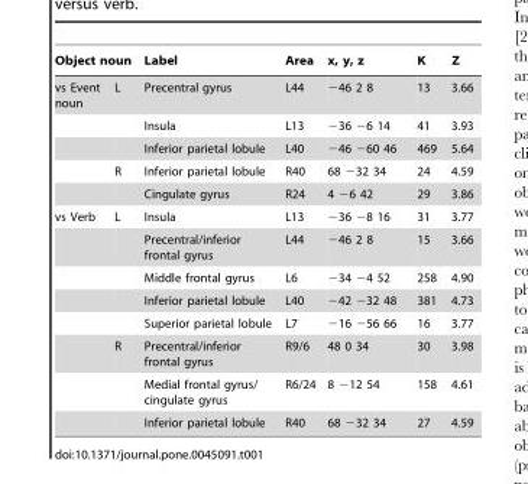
<table><thead><tr><td colspan="2">Object noun</td><td rowspan="2">Label Precentral gyrus</td><td rowspan="2">Area L44</td><td rowspan="2">x, y, z −46 2 8</td><td rowspan="2">K 13</td><td rowspan="2">Z 3.66</td></tr><tr><td>vs Event noun</td><td>L</td></tr></thead><tbody><tr><td></td><td></td><td>Insula</td><td>L13</td><td>−36 −6 14</td><td>41</td><td>3.93</td></tr><tr><td></td><td></td><td>Inferior parietal lobule</td><td>L40</td><td>−46 −60 46</td><td>469</td><td>5.64</td></tr><tr><td></td><td>R</td><td>Inferior parietal lobule</td><td>R40</td><td>68 −32 34</td><td>24</td><td>4.59</td></tr><tr><td></td><td></td><td>Cingulate gyrus</td><td>R24</td><td>4 −6 42</td><td>29</td><td>3.86</td></tr><tr><td rowspan="8">vs Verb</td><td>L</td><td>Insula</td><td>L13</td><td>−36 −8 16</td><td>31</td><td>3.77</td></tr><tr><td></td><td>Precentral/inferior frontal gyrus</td><td>L44</td><td>−46 2 8</td><td>15</td><td>3.66</td></tr><tr><td></td><td>Middle frontal gyrus</td><td>L6</td><td>−34 −4 52</td><td>258</td><td>4.90</td></tr><tr><td></td><td>Inferior parietal lobule</td><td>L40</td><td>−42 −32 48</td><td>381</td><td>4.73</td></tr><tr><td></td><td>Superior parietal lobule</td><td>L7</td><td>−16 −56 66</td><td>16</td><td>3.77</td></tr><tr><td>R</td><td>Precentral/inferior frontal gyrus</td><td>R9/6</td><td>48 0 34</td><td>30</td><td>3.98</td></tr><tr><td></td><td>Medial frontal gyrus/ cingulate gyrus</td><td>R6/24</td><td>8 −12 54</td><td>158</td><td>4.61</td></tr><tr><td></td><td>Inferior parietal lobule</td><td>R40</td><td>68 −32 34</td><td>27</td><td>4.59</td></tr></tbody></table>